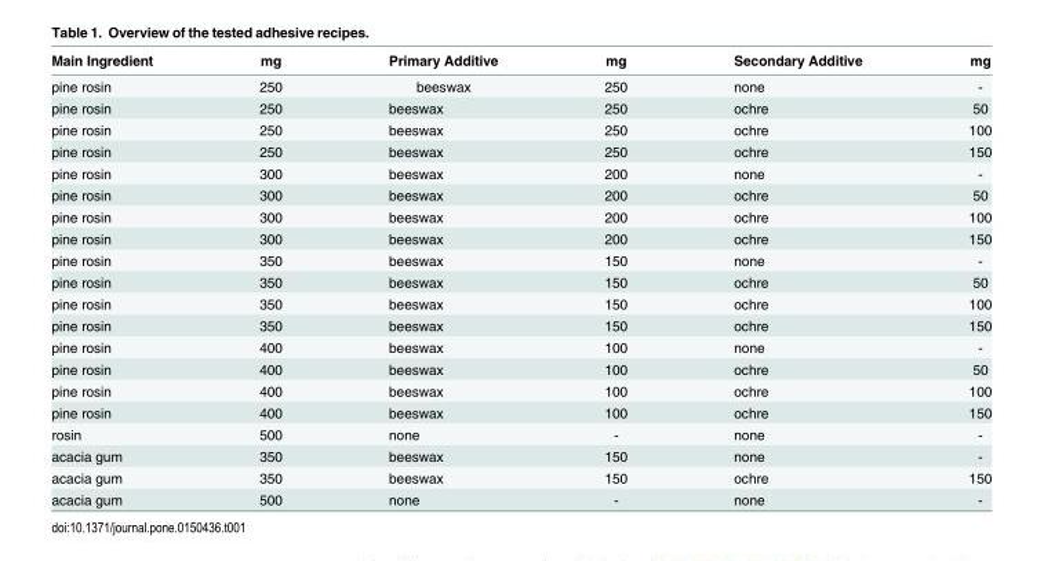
<table><thead><tr><td>Main Ingredient</td><td>mg</td><td>Primary Additive</td><td>mg</td><td>Secondary Additive</td><td>mg</td></tr></thead><tbody><tr><td>pine rosin</td><td>250</td><td>beeswax</td><td>250</td><td>none</td><td>-</td></tr><tr><td>pine rosin</td><td>250</td><td>beeswax</td><td>250</td><td>ochre</td><td>50</td></tr><tr><td>pine rosin</td><td>250</td><td>beeswax</td><td>250</td><td>ochre</td><td>100</td></tr><tr><td>pine rosin</td><td>250</td><td>beeswax</td><td>250</td><td>ochre</td><td>150</td></tr><tr><td>pine rosin</td><td>300</td><td>beeswax</td><td>200</td><td>none</td><td>-</td></tr><tr><td>pine rosin</td><td>300</td><td>beeswax</td><td>200</td><td>ochre</td><td>50</td></tr><tr><td>pine rosin</td><td>300</td><td>beeswax</td><td>200</td><td>ochre</td><td>100</td></tr><tr><td>pine rosin</td><td>300</td><td>beeswax</td><td>200</td><td>ochre</td><td>150</td></tr><tr><td>pine rosin</td><td>350</td><td>beeswax</td><td>150</td><td>none</td><td>-</td></tr><tr><td>pine rosin</td><td>350</td><td>beeswax</td><td>150</td><td>ochre</td><td>50</td></tr><tr><td>pine rosin</td><td>350</td><td>beeswax</td><td>150</td><td>ochre</td><td>100</td></tr><tr><td>pine rosin</td><td>350</td><td>beeswax</td><td>150</td><td>ochre</td><td>150</td></tr><tr><td>pine rosin</td><td>400</td><td>beeswax</td><td>100</td><td>none</td><td>-</td></tr><tr><td>pine rosin</td><td>400</td><td>beeswax</td><td>100</td><td>ochre</td><td>50</td></tr><tr><td>pine rosin</td><td>400</td><td>beeswax</td><td>100</td><td>ochre</td><td>100</td></tr><tr><td>pine rosin</td><td>400</td><td>beeswax</td><td>100</td><td>ochre</td><td>150</td></tr><tr><td>rosin</td><td>500</td><td>none</td><td>-</td><td>none</td><td>-</td></tr><tr><td>acacia gum</td><td>350</td><td>beeswax</td><td>150</td><td>none</td><td>-</td></tr><tr><td>acacia gum</td><td>350</td><td>beeswax</td><td>150</td><td>ochre</td><td>150</td></tr><tr><td>acacia gum</td><td>500</td><td>none</td><td>-</td><td>none</td><td>-</td></tr></tbody></table>